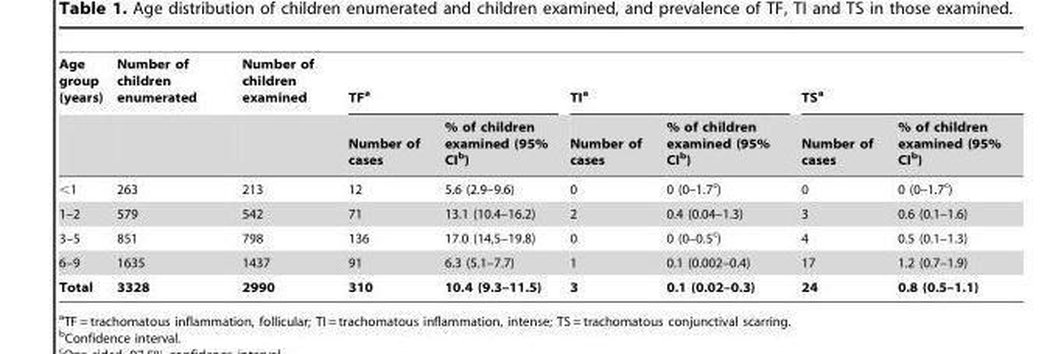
<table><thead><tr><td rowspan="2">Age group (years)</td><td rowspan="2">Number of children enumerated</td><td rowspan="2">Number of children examined</td><td colspan="2">TF<sup>a</sup></td><td colspan="2">TI<sup>a</sup></td><td colspan="2">TS<sup>a</sup></td></tr><tr><td>Number of cases</td><td>% of children examined (95% CI<sup>b</sup>)</td><td>Number of cases</td><td>% of children examined (95% CI<sup>b</sup>)</td><td>Number of cases</td><td>% of children examined (95% CI<sup>b</sup>)</td></tr></thead><tbody><tr><td>&lt;1</td><td>263</td><td>213</td><td>12</td><td>5.6 (2.9–9.6)</td><td>0</td><td>0 (0–1.7<sup>c</sup>)</td><td>0</td><td>0 (0–1.7<sup>c</sup>)</td></tr><tr><td>1–2</td><td>579</td><td>542</td><td>71</td><td>13.1 (10.4–16.2)</td><td>2</td><td>0.4 (0.04–1.3)</td><td>3</td><td>0.6 (0.1–1.6)</td></tr><tr><td>3–5</td><td>851</td><td>798</td><td>136</td><td>17.0 (14,5–19.8)</td><td>0</td><td>0 (0–0.5<sup>c</sup>)</td><td>4</td><td>0.5 (0.1–1.3)</td></tr><tr><td>6–9</td><td>1635</td><td>1437</td><td>91</td><td>6.3 (5.1–7.7)</td><td>1</td><td>0.1 (0.002–0.4)</td><td>17</td><td>1.2 (0.7–1.9)</td></tr><tr><td>Total</td><td>3328</td><td>2990</td><td>310</td><td>10.4 (9.3–11.5)</td><td>3</td><td>0.1 (0.02–0.3)</td><td>24</td><td>0.8 (0.5–1.1)</td></tr></tbody></table>